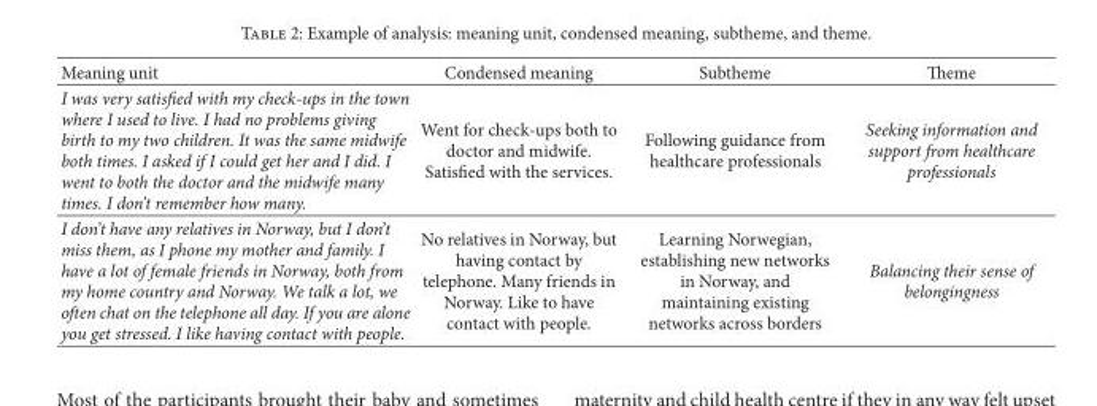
<table><thead><tr><td>Meaning unit</td><td>Condensed meaning</td><td>Subtheme</td><td>Theme</td></tr></thead><tbody><tr><td>I was very satisfied with my check-ups in the town where I used to live. I had no problems giving birth to my two children. It was the same midwife both times. I asked if I could get her and I did. I went to both the doctor and the midwife many times. I don’t remember how many.</td><td>Went for check-ups both to doctor and midwife. Satisfied with the services.</td><td>Following guidance from healthcare professionals</td><td>Seeking information and support from healthcare professionals</td></tr><tr><td>I don’t have any relatives in Norway, but I don’t miss them, as I phone my mother and family. I have a lot of female friends in Norway, both from my home country and Norway. We talk a lot, we often chat on the telephone all day. If you are alone you get stressed. I like having contact with people.</td><td>No relatives in Norway, but having contact by telephone. Many friends in Norway. Like to have contact with people.</td><td>Learning Norwegian, establishing new networks in Norway, and maintaining existing networks across borders</td><td>Balancing their sense of belongingness</td></tr></tbody></table>